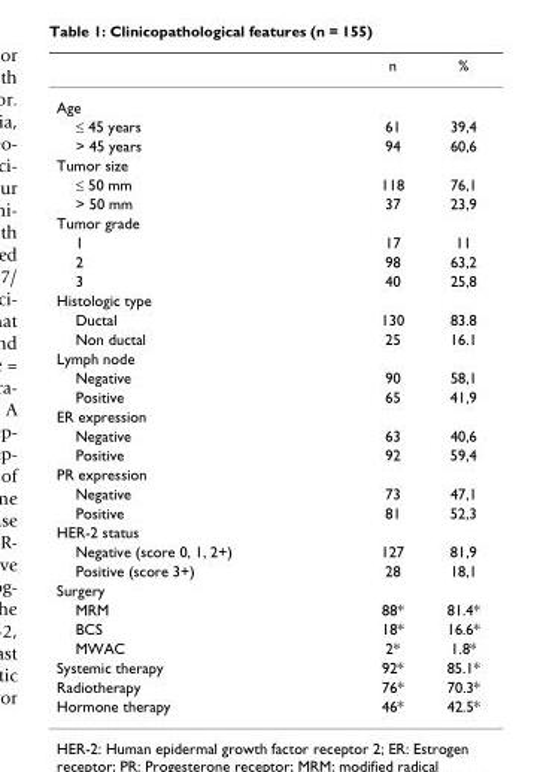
<table><thead><tr><td></td><td>n</td><td>%</td></tr></thead><tbody><tr><td colspan="3">Age</td></tr><tr><td>≤ 45 years</td><td>61</td><td>39,4</td></tr><tr><td>&gt; 45 years</td><td>94</td><td>60,6</td></tr><tr><td colspan="3">Tumor size</td></tr><tr><td>≤ 50 mm</td><td>118</td><td>76,1</td></tr><tr><td>&gt; 50 mm</td><td>37</td><td>23,9</td></tr><tr><td colspan="3">Tumor grade</td></tr><tr><td>1</td><td>17</td><td>11</td></tr><tr><td>2</td><td>98</td><td>63,2</td></tr><tr><td>3</td><td>40</td><td>25,8</td></tr><tr><td colspan="3">Histologic type</td></tr><tr><td>Ductal</td><td>130</td><td>83.8</td></tr><tr><td>Non ductal</td><td>25</td><td>16.1</td></tr><tr><td colspan="3">Lymph node</td></tr><tr><td>Negative</td><td>90</td><td>58,1</td></tr><tr><td>Positive</td><td>65</td><td>41,9</td></tr><tr><td colspan="3">ER expression</td></tr><tr><td>Negative</td><td>63</td><td>40,6</td></tr><tr><td>Positive</td><td>92</td><td>59,4</td></tr><tr><td colspan="3">PR expression</td></tr><tr><td>Negative</td><td>73</td><td>47,1</td></tr><tr><td>Positive</td><td>81</td><td>52,3</td></tr><tr><td colspan="3">HER-2 status</td></tr><tr><td>Negative (score 0, 1, 2+)</td><td>127</td><td>81,9</td></tr><tr><td>Positive (score 3+)</td><td>28</td><td>18,1</td></tr><tr><td colspan="3">Surgery</td></tr><tr><td>MRM</td><td>88*</td><td>81.4*</td></tr><tr><td>BCS</td><td>18*</td><td>16.6*</td></tr><tr><td>MWAC</td><td>2*</td><td>1.8*</td></tr><tr><td>Systemic therapy</td><td>92*</td><td>85.1*</td></tr><tr><td>Radiotherapy</td><td>76*</td><td>70.3*</td></tr><tr><td>Hormone therapy</td><td>46*</td><td>42.5*</td></tr></tbody></table>